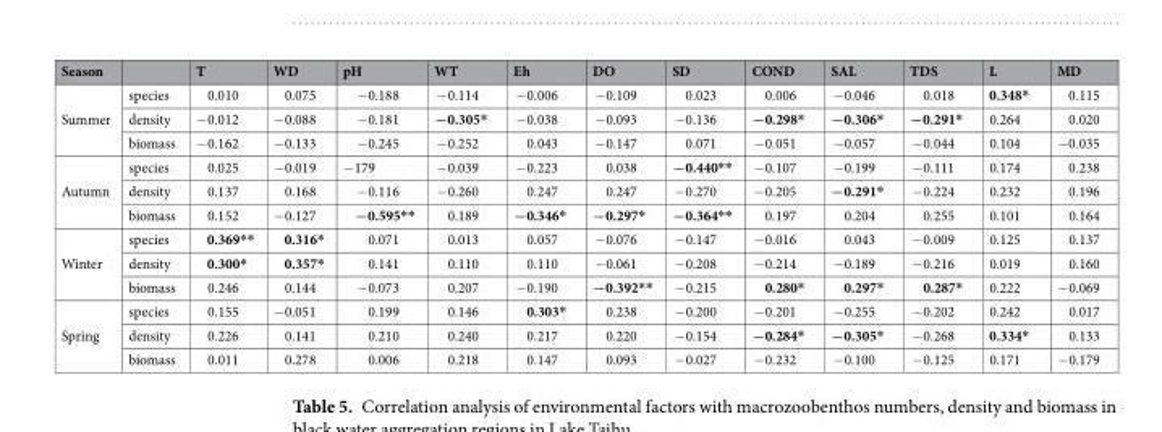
<table><thead><tr><td>Season</td><td></td><td>T</td><td>WD</td><td>pH</td><td>WT</td><td>Eh</td><td>DO</td><td>SD</td><td>COND</td><td>SAL</td><td>TDS</td><td>L</td><td>MD</td></tr></thead><tbody><tr><td rowspan="3">Summer</td><td>species</td><td>0.010</td><td>0.075</td><td>−0.188</td><td>−0.114</td><td>−0.006</td><td>−0.109</td><td>0.023</td><td>0.006</td><td>−0.046</td><td>0.018</td><td>0.348*</td><td>0.115</td></tr><tr><td>density</td><td>−0.012</td><td>−0.088</td><td>−0.181</td><td>−0.305*</td><td>−0.038</td><td>−0.093</td><td>−0.136</td><td>−0.298*</td><td>−0.306*</td><td>−0.291*</td><td>0.264</td><td>0.020</td></tr><tr><td>biomass</td><td>−0.162</td><td>−0.133</td><td>−0.245</td><td>−0.252</td><td>0.043</td><td>−0.147</td><td>0.071</td><td>−0.051</td><td>−0.057</td><td>−0.044</td><td>0.104</td><td>−0.035</td></tr><tr><td rowspan="3">Autumn</td><td>species</td><td>0.025</td><td>−0.019</td><td>−179</td><td>−0.039</td><td>−0.223</td><td>0.038</td><td>−0.440**</td><td>−0.107</td><td>−0.199</td><td>−0.111</td><td>0.174</td><td>0.238</td></tr><tr><td>density</td><td>0.137</td><td>0.168</td><td>−0.116</td><td>−0.260</td><td>0.247</td><td>0.247</td><td>−0.270</td><td>−0.205</td><td>−0.291*</td><td>−0.224</td><td>0.232</td><td>0.196</td></tr><tr><td>biomass</td><td>0.152</td><td>−0.127</td><td>−0.595**</td><td>0.189</td><td>−0.346*</td><td>−0.297*</td><td>−0.364**</td><td>0.197</td><td>0.204</td><td>0.255</td><td>0.101</td><td>0.164</td></tr><tr><td rowspan="3">Winter</td><td>species</td><td>0.369**</td><td>0.316*</td><td>0.071</td><td>0.013</td><td>0.057</td><td>−0.076</td><td>−0.147</td><td>−0.016</td><td>0.043</td><td>−0.009</td><td>0.125</td><td>0.137</td></tr><tr><td>density</td><td>0.300*</td><td>0.357*</td><td>0.141</td><td>0.110</td><td>0.110</td><td>−0.061</td><td>−0.208</td><td>−0.214</td><td>−0.189</td><td>−0.216</td><td>0.019</td><td>0.160</td></tr><tr><td>biomass</td><td>0.246</td><td>0.144</td><td>−0.073</td><td>0.207</td><td>−0.190</td><td>−0.392**</td><td>−0.215</td><td>0.280*</td><td>0.297*</td><td>0.287*</td><td>0.222</td><td>−0.069</td></tr><tr><td rowspan="3">Spring</td><td>species</td><td>0.155</td><td>−0.051</td><td>0.199</td><td>0.146</td><td>0.303*</td><td>0.238</td><td>−0.200</td><td>−0.201</td><td>−0.255</td><td>−0.202</td><td>0.242</td><td>0.017</td></tr><tr><td>density</td><td>0.226</td><td>0.141</td><td>0.210</td><td>0.240</td><td>0.217</td><td>0.220</td><td>−0.154</td><td>−0.284*</td><td>−0.305*</td><td>−0.268</td><td>0.334*</td><td>0.133</td></tr><tr><td>biomass</td><td>0.011</td><td>0.278</td><td>0.006</td><td>0.218</td><td>0.147</td><td>0.093</td><td>−0.027</td><td>−0.232</td><td>−0.100</td><td>−0.125</td><td>0.171</td><td>−0.179</td></tr></tbody></table>